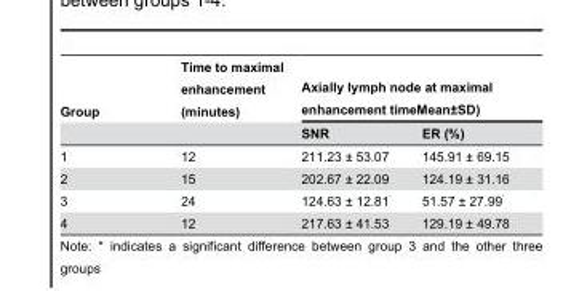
<table><thead><tr><td rowspan="2">Group</td><td rowspan="2">Time to maximal enhancement (minutes)</td><td colspan="2">Axially lymph node at maximal enhancement time（Mean±SD)</td></tr><tr><td>SNR</td><td>ER (%)</td></tr></thead><tbody><tr><td>1</td><td>12</td><td>211.23 ± 53.07</td><td>145.91 ± 69.15</td></tr><tr><td>2</td><td>15</td><td>202.67 ± 22.09</td><td>124.19 ± 31.16</td></tr><tr><td>3</td><td>24</td><td>124.63 ± 12.81 *</td><td>51.57 ± 27.99 *</td></tr><tr><td>4</td><td>12</td><td>217.63 ± 41.53</td><td>129.19 ± 49.78</td></tr></tbody></table>